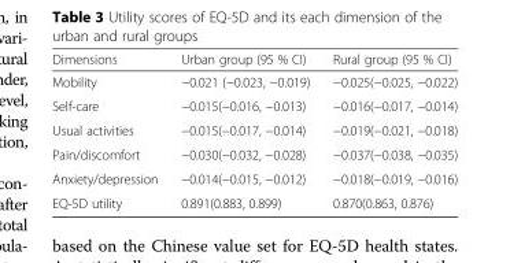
<table><thead><tr><td>Dimensions</td><td>Urban group (95 % CI)</td><td>Rural group (95 % CI)</td></tr></thead><tbody><tr><td>Mobility</td><td>−0.021 (−0.023, −0.019)</td><td>−0.025(−0.025, −0.022)</td></tr><tr><td>Self-care</td><td>−0.015(−0.016, −0.013)</td><td>−0.016(−0.017, −0.014)</td></tr><tr><td>Usual activities</td><td>−0.015(−0.017, −0.014)</td><td>−0.019(−0.021, −0.018)</td></tr><tr><td>Pain/discomfort</td><td>−0.030(−0.032, −0.028)</td><td>−0.037(−0.038, −0.035)</td></tr><tr><td>Anxiety/depression</td><td>−0.014(−0.015, −0.012)</td><td>−0.018(−0.019, −0.016)</td></tr><tr><td>EQ-5D utility</td><td>0.891(0.883, 0.899)</td><td>0.870(0.863, 0.876)</td></tr></tbody></table>